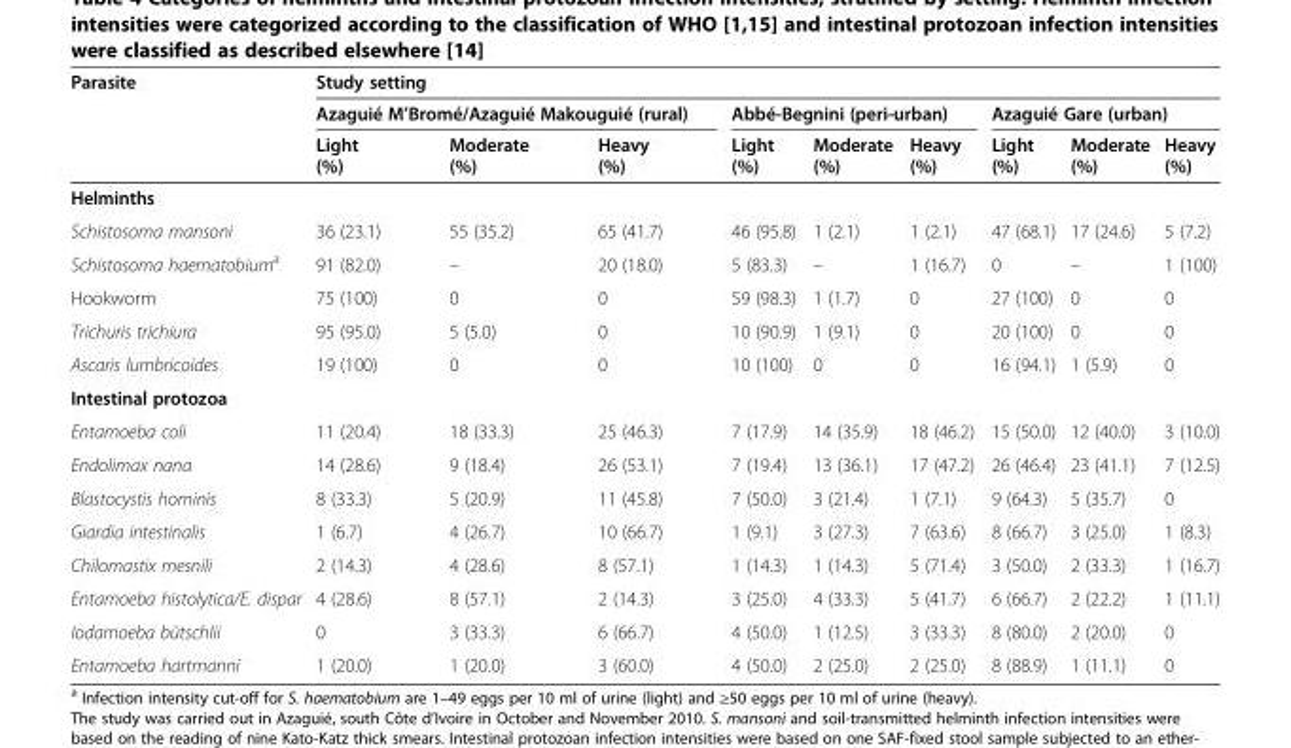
<table><thead><tr><td rowspan="3">Parasite</td><td colspan="9">Study setting</td></tr><tr><td colspan="3">Azaguié M’Bromé/Azaguié Makouguié (rural)</td><td colspan="3">Abbé-Begnini (peri-urban)</td><td colspan="3">Azaguié Gare (urban)</td></tr><tr><td>Light (%)</td><td>Moderate (%)</td><td>Heavy (%)</td><td>Light (%)</td><td>Moderate (%)</td><td>Heavy (%)</td><td>Light (%)</td><td>Moderate (%)</td><td>Heavy (%)</td></tr></thead><tbody><tr><td colspan="10">Helminths</td></tr><tr><td>Schistosoma mansoni</td><td>36 (23.1)</td><td>55 (35.2)</td><td>65 (41.7)</td><td>46 (95.8)</td><td>1 (2.1)</td><td>1 (2.1)</td><td>47 (68.1)</td><td>17 (24.6)</td><td>5 (7.2)</td></tr><tr><td>Schistosoma haematobium<sup>a</sup></td><td>91 (82.0)</td><td>–</td><td>20 (18.0)</td><td>5 (83.3)</td><td>–</td><td>1 (16.7)</td><td>0</td><td>–</td><td>1 (100)</td></tr><tr><td>Hookworm</td><td>75 (100)</td><td>0</td><td>0</td><td>59 (98.3)</td><td>1 (1.7)</td><td>0</td><td>27 (100)</td><td>0</td><td>0</td></tr><tr><td>Trichuris trichiura</td><td>95 (95.0)</td><td>5 (5.0)</td><td>0</td><td>10 (90.9)</td><td>1 (9.1)</td><td>0</td><td>20 (100)</td><td>0</td><td>0</td></tr><tr><td>Ascaris lumbricoides</td><td>19 (100)</td><td>0</td><td>0</td><td>10 (100)</td><td>0</td><td>0</td><td>16 (94.1)</td><td>1 (5.9)</td><td>0</td></tr><tr><td colspan="10">Intestinal protozoa</td></tr><tr><td>Entamoeba coli</td><td>11 (20.4)</td><td>18 (33.3)</td><td>25 (46.3)</td><td>7 (17.9)</td><td>14 (35.9)</td><td>18 (46.2)</td><td>15 (50.0)</td><td>12 (40.0)</td><td>3 (10.0)</td></tr><tr><td>Endolimax nana</td><td>14 (28.6)</td><td>9 (18.4)</td><td>26 (53.1)</td><td>7 (19.4)</td><td>13 (36.1)</td><td>17 (47.2)</td><td>26 (46.4)</td><td>23 (41.1)</td><td>7 (12.5)</td></tr><tr><td>Blastocystis hominis</td><td>8 (33.3)</td><td>5 (20.9)</td><td>11 (45.8)</td><td>7 (50.0)</td><td>3 (21.4)</td><td>1 (7.1)</td><td>9 (64.3)</td><td>5 (35.7)</td><td>0</td></tr><tr><td>Giardia intestinalis</td><td>1 (6.7)</td><td>4 (26.7)</td><td>10 (66.7)</td><td>1 (9.1)</td><td>3 (27.3)</td><td>7 (63.6)</td><td>8 (66.7)</td><td>3 (25.0)</td><td>1 (8.3)</td></tr><tr><td>Chilomastix mesnili</td><td>2 (14.3)</td><td>4 (28.6)</td><td>8 (57.1)</td><td>1 (14.3)</td><td>1 (14.3)</td><td>5 (71.4)</td><td>3 (50.0)</td><td>2 (33.3)</td><td>1 (16.7)</td></tr><tr><td>Entamoeba histolytica/E. dispar</td><td>4 (28.6)</td><td>8 (57.1)</td><td>2 (14.3)</td><td>3 (25.0)</td><td>4 (33.3)</td><td>5 (41.7)</td><td>6 (66.7)</td><td>2 (22.2)</td><td>1 (11.1)</td></tr><tr><td>Iodamoeba bütschlii</td><td>0</td><td>3 (33.3)</td><td>6 (66.7)</td><td>4 (50.0)</td><td>1 (12.5)</td><td>3 (33.3)</td><td>8 (80.0)</td><td>2 (20.0)</td><td>0</td></tr><tr><td>Entamoeba hartmanni</td><td>1 (20.0)</td><td>1 (20.0)</td><td>3 (60.0)</td><td>4 (50.0)</td><td>2 (25.0)</td><td>2 (25.0)</td><td>8 (88.9)</td><td>1 (11.1)</td><td>0</td></tr></tbody></table>